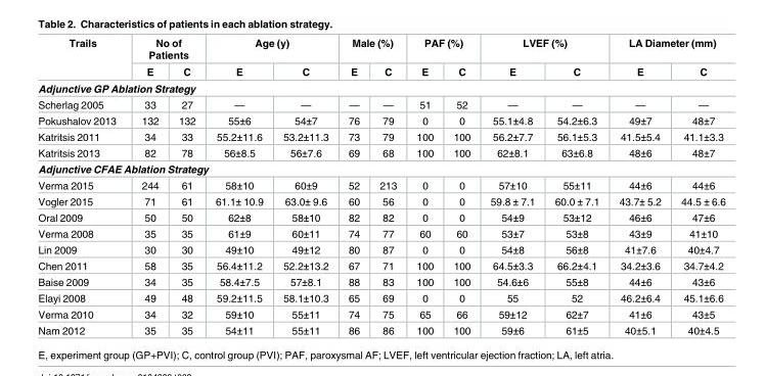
<table><thead><tr><td rowspan="2">Trails</td><td colspan="2">No of Patients</td><td colspan="2">Age (y)</td><td colspan="2">Male (%)</td><td colspan="2">PAF (%)</td><td colspan="2">LVEF (%)</td><td colspan="2">LA Diameter (mm)</td></tr><tr><td>E</td><td>C</td><td>E</td><td>C</td><td>E</td><td>C</td><td>E</td><td>C</td><td>E</td><td>C</td><td>E</td><td>C</td></tr></thead><tbody><tr><td colspan="13">Adjunctive GP Ablation Strategy</td></tr><tr><td>Scherlag 2005</td><td>33</td><td>27</td><td>—</td><td>—</td><td>—</td><td>—</td><td>51</td><td>52</td><td>—</td><td>—</td><td>—</td><td>—</td></tr><tr><td>Pokushalov 2013</td><td>132</td><td>132</td><td>55±6</td><td>54±7</td><td>76</td><td>79</td><td>0</td><td>0</td><td>55.1±4.8</td><td>54.2±6.3</td><td>49±7</td><td>48±7</td></tr><tr><td>Katritsis 2011</td><td>34</td><td>33</td><td>55.2±11.6</td><td>53.2±11.3</td><td>73</td><td>79</td><td>100</td><td>100</td><td>56.2±7.7</td><td>56.1±5.3</td><td>41.5±5.4</td><td>41.1±3.3</td></tr><tr><td>Katritsis 2013</td><td>82</td><td>78</td><td>56±8.5</td><td>56±7.6</td><td>69</td><td>68</td><td>100</td><td>100</td><td>62±8.1</td><td>63±6.8</td><td>48±6</td><td>48±7</td></tr><tr><td colspan="13">Adjunctive CFAE Ablation Strategy</td></tr><tr><td>Verma 2015</td><td>244</td><td>61</td><td>58±10</td><td>60±9</td><td>52</td><td>213</td><td>0</td><td>0</td><td>57±10</td><td>55±11</td><td>44±6</td><td>44±6</td></tr><tr><td>Vogler 2015</td><td>71</td><td>61</td><td>61.1± 10.9</td><td>63.0± 9.6</td><td>60</td><td>56</td><td>0</td><td>0</td><td>59.8 ± 7.1</td><td>60.0 ± 7.1</td><td>43.7± 5.2</td><td>44.5 ± 6.6</td></tr><tr><td>Oral 2009</td><td>50</td><td>50</td><td>62±8</td><td>58±10</td><td>82</td><td>82</td><td>0</td><td>0</td><td>54±9</td><td>53±12</td><td>46±6</td><td>47±6</td></tr><tr><td>Verma 2008</td><td>35</td><td>35</td><td>61±9</td><td>60±11</td><td>74</td><td>77</td><td>60</td><td>60</td><td>53±7</td><td>53±8</td><td>43±9</td><td>41±10</td></tr><tr><td>Lin 2009</td><td>30</td><td>30</td><td>49±10</td><td>49±12</td><td>80</td><td>87</td><td>0</td><td>0</td><td>54±8</td><td>56±8</td><td>41±7.6</td><td>40±4.7</td></tr><tr><td>Chen 2011</td><td>58</td><td>35</td><td>56.4±11.2</td><td>52.2±13.2</td><td>67</td><td>71</td><td>100</td><td>100</td><td>64.5±3.3</td><td>66.2±4.1</td><td>34.2±3.6</td><td>34.7±4.2</td></tr><tr><td>Baise 2009</td><td>34</td><td>35</td><td>58.4±7.5</td><td>57±8.1</td><td>88</td><td>83</td><td>100</td><td>100</td><td>54.6±6</td><td>55±8</td><td>44±6</td><td>43±6</td></tr><tr><td>Elayi 2008</td><td>49</td><td>48</td><td>59.2±11.5</td><td>58.1±10.3</td><td>65</td><td>69</td><td>0</td><td>0</td><td>55</td><td>52</td><td>46.2±6.4</td><td>45.1±6.6</td></tr><tr><td>Verma 2010</td><td>34</td><td>32</td><td>59±10</td><td>55±11</td><td>74</td><td>75</td><td>65</td><td>66</td><td>59±12</td><td>62±7</td><td>41±6</td><td>43±5</td></tr><tr><td>Nam 2012</td><td>35</td><td>35</td><td>54±11</td><td>55±11</td><td>86</td><td>86</td><td>100</td><td>100</td><td>59±6</td><td>61±5</td><td>40±5.1</td><td>40±4.5</td></tr></tbody></table>